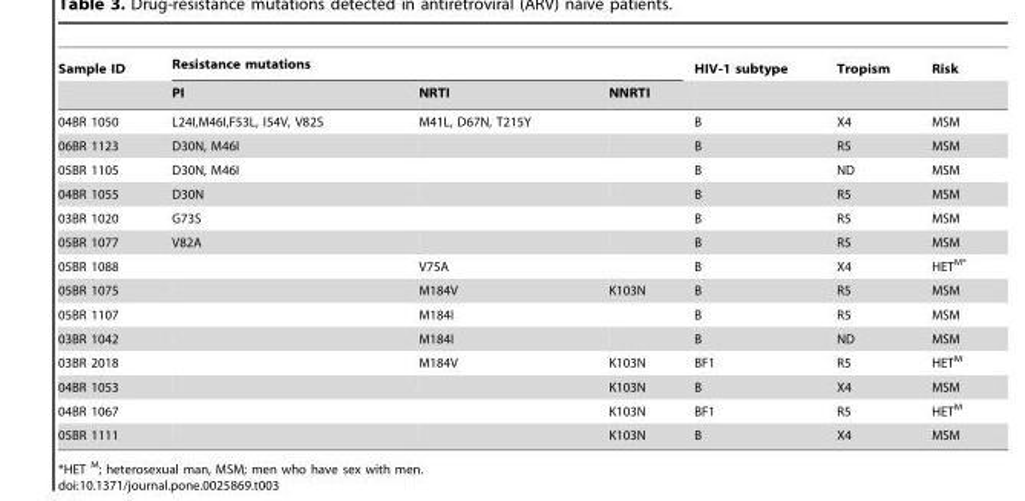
<table><thead><tr><td rowspan="2">Sample ID</td><td colspan="3">Resistance mutations</td><td rowspan="2">HIV-1 subtype</td><td rowspan="2">Tropism</td><td rowspan="2">Risk</td></tr><tr><td>PI</td><td>NRTI</td><td>NNRTI</td></tr></thead><tbody><tr><td>04BR 1050</td><td>L24I,M46I,F53L, I54V, V82S</td><td>M41L, D67N, T215Y</td><td></td><td>B</td><td>X4</td><td>MSM</td></tr><tr><td>06BR 1123</td><td>D30N, M46I</td><td></td><td></td><td>B</td><td>R5</td><td>MSM</td></tr><tr><td>05BR 1105</td><td>D30N, M46I</td><td></td><td></td><td>B</td><td>ND</td><td>MSM</td></tr><tr><td>04BR 1055</td><td>D30N</td><td></td><td></td><td>B</td><td>R5</td><td>MSM</td></tr><tr><td>03BR 1020</td><td>G73S</td><td></td><td></td><td>B</td><td>R5</td><td>MSM</td></tr><tr><td>05BR 1077</td><td>V82A</td><td></td><td></td><td>B</td><td>R5</td><td>MSM</td></tr><tr><td>05BR 1088</td><td></td><td>V75A</td><td></td><td>B</td><td>X4</td><td>HET<sup>M</sup>*</td></tr><tr><td>05BR 1075</td><td></td><td>M184V</td><td>K103N</td><td>B</td><td>R5</td><td>MSM</td></tr><tr><td>05BR 1107</td><td></td><td>M184I</td><td></td><td>B</td><td>R5</td><td>MSM</td></tr><tr><td>03BR 1042</td><td></td><td>M184I</td><td></td><td>B</td><td>ND</td><td>MSM</td></tr><tr><td>03BR 2018</td><td></td><td>M184V</td><td>K103N</td><td>BF1</td><td>R5</td><td>HET<sup>M</sup></td></tr><tr><td>04BR 1053</td><td></td><td></td><td>K103N</td><td>B</td><td>X4</td><td>MSM</td></tr><tr><td>04BR 1067</td><td></td><td></td><td>K103N</td><td>BF1</td><td>R5</td><td>HET<sup>M</sup></td></tr><tr><td>05BR 1111</td><td></td><td></td><td>K103N</td><td>B</td><td>X4</td><td>MSM</td></tr></tbody></table>